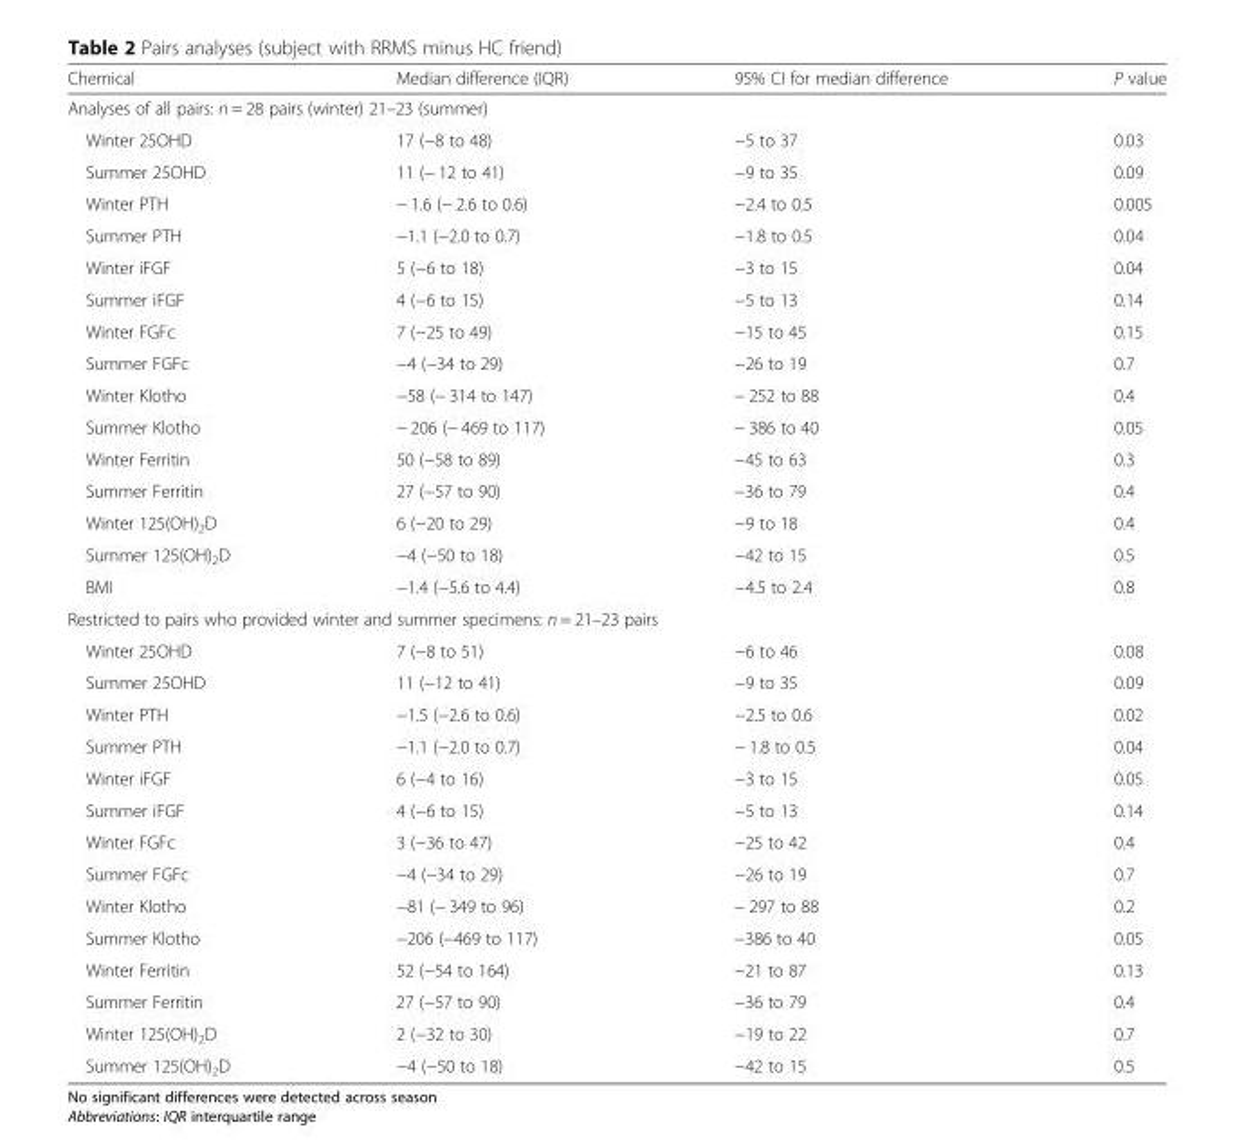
<table><thead><tr><td>Chemical</td><td>Median difference (IQR)</td><td>95% CI for median difference</td><td>P value</td></tr></thead><tbody><tr><td colspan="4">Analyses of all pairs: n = 28 pairs (winter) 21–23 (summer)</td></tr><tr><td>Winter 25OHD</td><td>17 (−8 to 48)</td><td>−5 to 37</td><td>0.03</td></tr><tr><td>Summer 25OHD</td><td>11 (− 12 to 41)</td><td>−9 to 35</td><td>0.09</td></tr><tr><td>Winter PTH</td><td>− 1.6 (− 2.6 to 0.6)</td><td>−2.4 to 0.5</td><td>0.005</td></tr><tr><td>Summer PTH</td><td>−1.1 (−2.0 to 0.7)</td><td>−1.8 to 0.5</td><td>0.04</td></tr><tr><td>Winter iFGF</td><td>5 (−6 to 18)</td><td>−3 to 15</td><td>0.04</td></tr><tr><td>Summer iFGF</td><td>4 (−6 to 15)</td><td>−5 to 13</td><td>0.14</td></tr><tr><td>Winter FGFc</td><td>7 (−25 to 49)</td><td>−15 to 45</td><td>0.15</td></tr><tr><td>Summer FGFc</td><td>−4 (−34 to 29)</td><td>−26 to 19</td><td>0.7</td></tr><tr><td>Winter Klotho</td><td>−58 (− 314 to 147)</td><td>− 252 to 88</td><td>0.4</td></tr><tr><td>Summer Klotho</td><td>− 206 (− 469 to 117)</td><td>− 386 to 40</td><td>0.05</td></tr><tr><td>Winter Ferritin</td><td>50 (−58 to 89)</td><td>−45 to 63</td><td>0.3</td></tr><tr><td>Summer Ferritin</td><td>27 (−57 to 90)</td><td>−36 to 79</td><td>0.4</td></tr><tr><td>Winter 125(OH)<sub>2</sub>D</td><td>6 (−20 to 29)</td><td>−9 to 18</td><td>0.4</td></tr><tr><td>Summer 125(OH)<sub>2</sub>D</td><td>−4 (−50 to 18)</td><td>−42 to 15</td><td>0.5</td></tr><tr><td>BMI</td><td>−1.4 (−5.6 to 4.4)</td><td>−4.5 to 2.4</td><td>0.8</td></tr><tr><td colspan="4">Restricted to pairs who provided winter and summer specimens: n = 21–23 pairs</td></tr><tr><td>Winter 25OHD</td><td>7 (−8 to 51)</td><td>−6 to 46</td><td>0.08</td></tr><tr><td>Summer 25OHD</td><td>11 (−12 to 41)</td><td>−9 to 35</td><td>0.09</td></tr><tr><td>Winter PTH</td><td>−1.5 (−2.6 to 0.6)</td><td>−2.5 to 0.6</td><td>0.02</td></tr><tr><td>Summer PTH</td><td>−1.1 (−2.0 to 0.7)</td><td>− 1.8 to 0.5</td><td>0.04</td></tr><tr><td>Winter iFGF</td><td>6 (−4 to 16)</td><td>−3 to 15</td><td>0.05</td></tr><tr><td>Summer iFGF</td><td>4 (−6 to 15)</td><td>−5 to 13</td><td>0.14</td></tr><tr><td>Winter FGFc</td><td>3 (−36 to 47)</td><td>−25 to 42</td><td>0.4</td></tr><tr><td>Summer FGFc</td><td>−4 (−34 to 29)</td><td>−26 to 19</td><td>0.7</td></tr><tr><td>Winter Klotho</td><td>−81 (− 349 to 96)</td><td>− 297 to 88</td><td>0.2</td></tr><tr><td>Summer Klotho</td><td>−206 (−469 to 117)</td><td>−386 to 40</td><td>0.05</td></tr><tr><td>Winter Ferritin</td><td>52 (−54 to 164)</td><td>−21 to 87</td><td>0.13</td></tr><tr><td>Summer Ferritin</td><td>27 (−57 to 90)</td><td>−36 to 79</td><td>0.4</td></tr><tr><td>Winter 125(OH)<sub>2</sub>D</td><td>2 (−32 to 30)</td><td>−19 to 22</td><td>0.7</td></tr><tr><td>Summer 125(OH)<sub>2</sub>D</td><td>−4 (−50 to 18)</td><td>−42 to 15</td><td>0.5</td></tr></tbody></table>